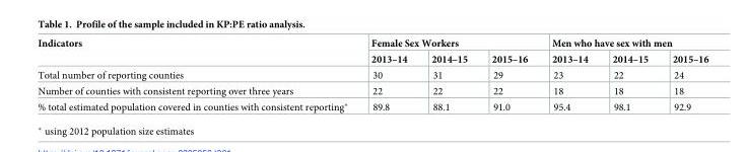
<table><thead><tr><td rowspan="2">Indicators</td><td colspan="3">Female Sex Workers</td><td colspan="3">Men who have sex with men</td></tr><tr><td>2013–14</td><td>2014–15</td><td>2015–16</td><td>2013–14</td><td>2014–15</td><td>2015–16</td></tr></thead><tbody><tr><td>Total number of reporting counties</td><td>30</td><td>31</td><td>29</td><td>23</td><td>22</td><td>24</td></tr><tr><td>Number of counties with consistent reporting over three years</td><td>22</td><td>22</td><td>22</td><td>18</td><td>18</td><td>18</td></tr><tr><td>% total estimated population covered in counties with consistent reporting*</td><td>89.8</td><td>88.1</td><td>91.0</td><td>95.4</td><td>98.1</td><td>92.9</td></tr></tbody></table>